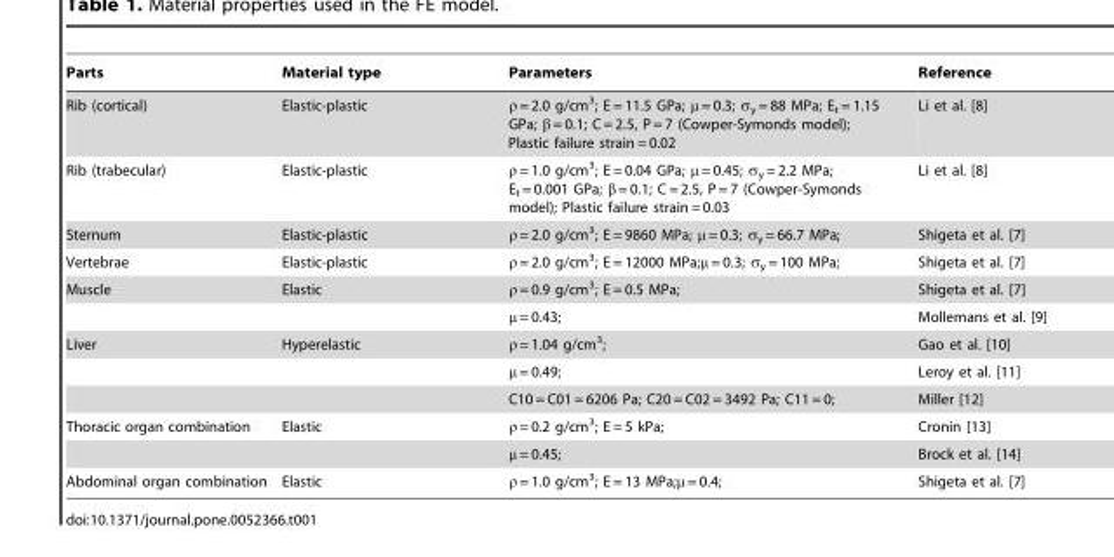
<table><thead><tr><td>Parts</td><td>Material type</td><td>Parameters</td><td>Reference</td></tr></thead><tbody><tr><td>Rib (cortical)</td><td>Elastic-plastic</td><td>ρ = 2.0 g/cm<sup>3</sup>; E = 11.5 GPa; μ = 0.3; σ<sub>y</sub> = 88 MPa; E<sub>t</sub> = 1.15 GPa; β = 0.1; C = 2.5, P = 7 (Cowper-Symonds model); Plastic failure strain = 0.02</td><td>Li et al. [8]</td></tr><tr><td>Rib (trabecular)</td><td>Elastic-plastic</td><td>ρ = 1.0 g/cm<sup>3</sup>; E = 0.04 GPa; μ = 0.45; σ<sub>y</sub> = 2.2 MPa; E<sub>t</sub> = 0.001 GPa; β = 0.1; C = 2.5, P = 7 (Cowper-Symonds model); Plastic failure strain = 0.03</td><td>Li et al. [8]</td></tr><tr><td>Sternum</td><td>Elastic-plastic</td><td>ρ = 2.0 g/cm<sup>3</sup>; E = 9860 MPa; μ = 0.3; σ<sub>y</sub> = 66.7 MPa;</td><td>Shigeta et al. [7]</td></tr><tr><td>Vertebrae</td><td>Elastic-plastic</td><td>ρ = 2.0 g/cm<sup>3</sup>; E = 12000 MPa;μ = 0.3; σ<sub>y</sub> = 100 MPa;</td><td>Shigeta et al. [7]</td></tr><tr><td rowspan="2">Muscle</td><td>Elastic</td><td>ρ = 0.9 g/cm<sup>3</sup>; E = 0.5 MPa;</td><td>Shigeta et al. [7]</td></tr><tr><td></td><td>μ = 0.43;</td><td>Mollemans et al. [9]</td></tr><tr><td rowspan="3">Liver</td><td>Hyperelastic</td><td>ρ = 1.04 g/cm<sup>3</sup>;</td><td>Gao et al. [10]</td></tr><tr><td></td><td>μ = 0.49;</td><td>Leroy et al. [11]</td></tr><tr><td></td><td>C10 = C01 = 6206 Pa; C20 = C02 = 3492 Pa; C11 = 0;</td><td>Miller [12]</td></tr><tr><td rowspan="2">Thoracic organ combination</td><td>Elastic</td><td>ρ = 0.2 g/cm<sup>3</sup>; E = 5 kPa;</td><td>Cronin [13]</td></tr><tr><td></td><td>μ = 0.45;</td><td>Brock et al. [14]</td></tr><tr><td>Abdominal organ combination</td><td>Elastic</td><td>ρ = 1.0 g/cm<sup>3</sup>; E = 13 MPa;μ = 0.4;</td><td>Shigeta et al. [7]</td></tr></tbody></table>